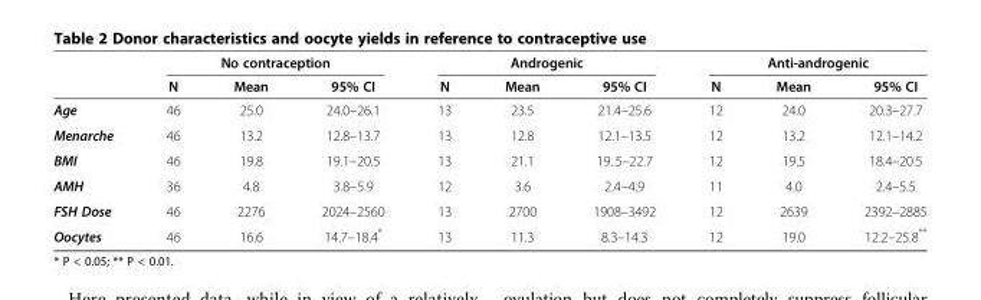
<table><thead><tr><td rowspan="2"></td><td colspan="3">No contraception</td><td colspan="3">Androgenic</td><td colspan="3">Anti-androgenic</td></tr><tr><td>N</td><td>Mean</td><td>95% CI</td><td>N</td><td>Mean</td><td>95% CI</td><td>N</td><td>Mean</td><td>95% CI</td></tr></thead><tbody><tr><td>Age</td><td>46</td><td>25.0</td><td>24.0–26.1</td><td>13</td><td>23.5</td><td>21.4–25.6</td><td>12</td><td>24.0</td><td>20.3–27.7</td></tr><tr><td>Menarche</td><td>46</td><td>13.2</td><td>12.8–13.7</td><td>13</td><td>12.8</td><td>12.1–13.5</td><td>12</td><td>13.2</td><td>12.1–14.2</td></tr><tr><td>BMI</td><td>46</td><td>19.8</td><td>19.1–20.5</td><td>13</td><td>21.1</td><td>19..5–22.7</td><td>12</td><td>19.5</td><td>18.4–20.5</td></tr><tr><td>AMH</td><td>36</td><td>4.8</td><td>3.8–5.9</td><td>12</td><td>3.6</td><td>2.4–4.9</td><td>11</td><td>4.0</td><td>2.4–5.5</td></tr><tr><td>FSH Dose</td><td>46</td><td>2276</td><td>2024–2560</td><td>13</td><td>2700</td><td>1908–3492</td><td>12</td><td>2639</td><td>2392–2885</td></tr><tr><td>Oocytes</td><td>46</td><td>16.6</td><td>14.7–18.4*</td><td>13</td><td>11.3</td><td>8.3–14.3</td><td>12</td><td>19.0</td><td>12.2–25.8**</td></tr></tbody></table>